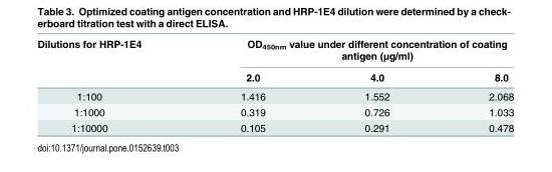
<table><thead><tr><td rowspan="2">Dilutions for HRP-1E4</td><td colspan="3">OD<sub>450nm</sub> value under different concentration of coating antigen (μg/ml)</td></tr><tr><td>2.0</td><td>4.0</td><td>8.0</td></tr></thead><tbody><tr><td>1:100</td><td>1.416</td><td>1.552</td><td>2.068</td></tr><tr><td>1:1000</td><td>0.319</td><td>0.726</td><td>1.033</td></tr><tr><td>1:10000</td><td>0.105</td><td>0.291</td><td>0.478</td></tr></tbody></table>